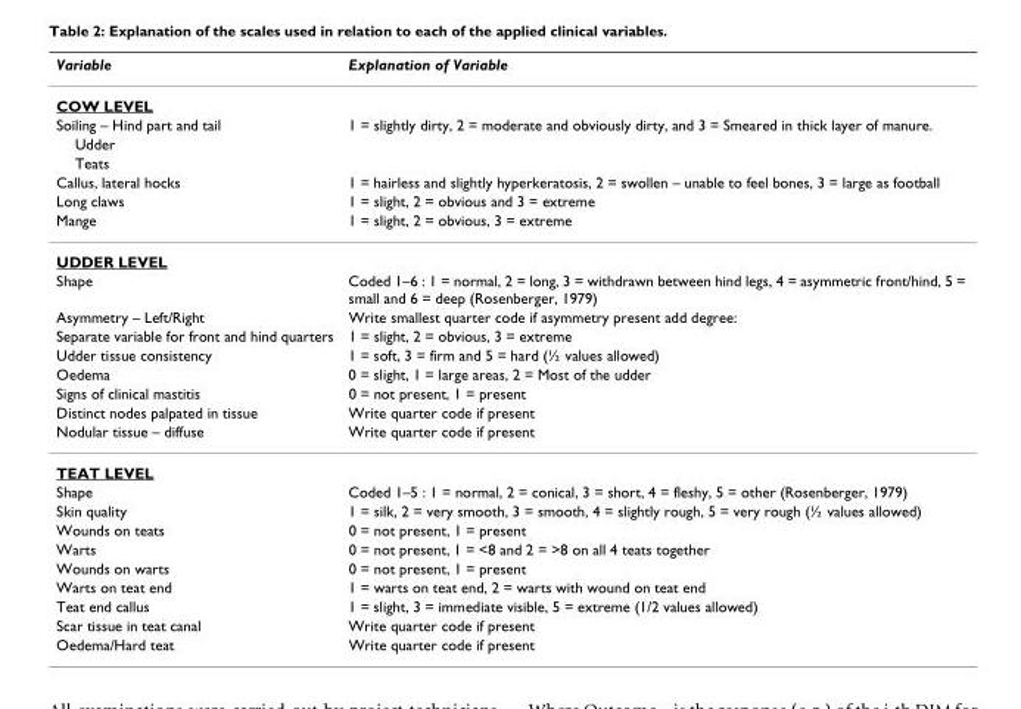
<table><thead><tr><td>Variable</td><td>Explanation of Variable</td></tr></thead><tbody><tr><td colspan="2">COW LEVEL</td></tr><tr><td>Soiling – Hind part and tail</td><td>1 = slightly dirty, 2 = moderate and obviously dirty, and 3 = Smeared in thick layer of manure.</td></tr><tr><td colspan="2">Udder</td></tr><tr><td colspan="2">Teats</td></tr><tr><td>Callus, lateral hocks</td><td>1 = hairless and slightly hyperkeratosis, 2 = swollen – unable to feel bones, 3 = large as football</td></tr><tr><td>Long claws</td><td>1 = slight, 2 = obvious and 3 = extreme</td></tr><tr><td>Mange</td><td>1 = slight, 2 = obvious, 3 = extreme</td></tr><tr><td colspan="2">UDDER LEVEL</td></tr><tr><td>Shape</td><td>Coded 1–6 : 1 = normal, 2 = long, 3 = withdrawn between hind legs, 4 = asymmetric front/hind, 5 = small and 6 = deep (Rosenberger, 1979)</td></tr><tr><td>Asymmetry – Left/Right</td><td>Write smallest quarter code if asymmetry present add degree:</td></tr><tr><td>Separate variable for front and hind quarters</td><td>1 = slight, 2 = obvious, 3 = extreme</td></tr><tr><td>Udder tissue consistency</td><td>1 = soft, 3 = firm and 5 = hard (½ values allowed)</td></tr><tr><td>Oedema</td><td>0 = slight, 1 = large areas, 2 = Most of the udder</td></tr><tr><td>Signs of clinical mastitis</td><td>0 = not present, 1 = present</td></tr><tr><td>Distinct nodes palpated in tissue</td><td>Write quarter code if present</td></tr><tr><td>Nodular tissue – diffuse</td><td>Write quarter code if present</td></tr><tr><td colspan="2">TEAT LEVEL</td></tr><tr><td>Shape</td><td>Coded 1–5 : 1 = normal, 2 = conical, 3 = short, 4 = fleshy, 5 = other (Rosenberger, 1979)</td></tr><tr><td>Skin quality</td><td>1 = silk, 2 = very smooth, 3 = smooth, 4 = slightly rough, 5 = very rough (½ values allowed)</td></tr><tr><td>Wounds on teats</td><td>0 = not present, 1 = present</td></tr><tr><td>Warts</td><td>0 = not present, 1 = &lt;8 and 2 = &gt;8 on all 4 teats together</td></tr><tr><td>Wounds on warts</td><td>0 = not present, 1 = present</td></tr><tr><td>Warts on teat end</td><td>1 = warts on teat end, 2 = warts with wound on teat end</td></tr><tr><td>Teat end callus</td><td>1 = slight, 3 = immediate visible, 5 = extreme (1/2 values allowed)</td></tr><tr><td>Scar tissue in teat canal</td><td>Write quarter code if present</td></tr><tr><td>Oedema/Hard teat</td><td>Write quarter code if present</td></tr></tbody></table>